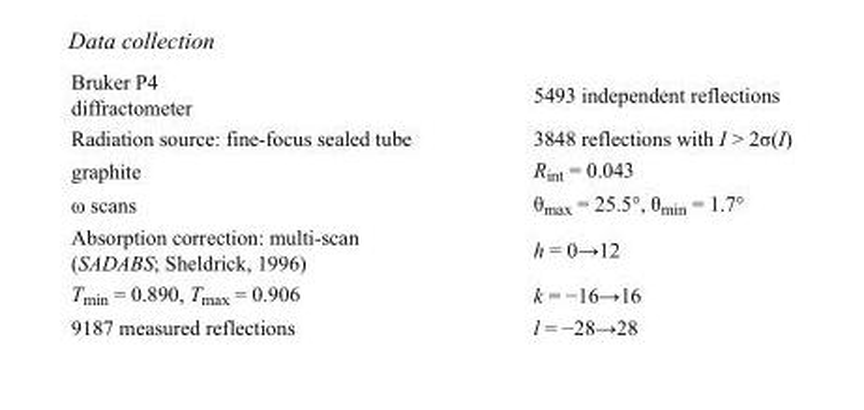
<table><tbody><tr><td>Bruker P4 diffractometer</td><td>5493 independent reflections</td></tr><tr><td>Radiation source: fine-focus sealed tube</td><td>3848 reflections with I &gt; 2σ(I)</td></tr><tr><td>graphite</td><td>R<sub>int</sub> = 0.043</td></tr><tr><td>ω scans</td><td>θ<sub>max</sub> = 25.5°, θ<sub>min</sub> = 1.7°</td></tr><tr><td>Absorption correction: multi-scan (SADABS; Sheldrick, 1996)</td><td>h = 0→12</td></tr><tr><td>T<sub>min</sub> = 0.890, T<sub>max</sub> = 0.906</td><td>k = −16→16</td></tr><tr><td>9187 measured reflections</td><td>l = −28→28</td></tr></tbody></table>